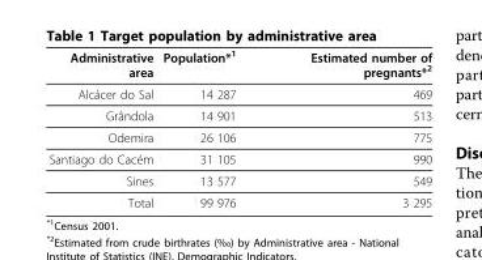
<table><thead><tr><td>Administrative area</td><td>Population*<sup>1</sup></td><td>Estimated number of pregnants*<sup>2</sup></td></tr></thead><tbody><tr><td>Alcácer do Sal</td><td>14 287</td><td>469</td></tr><tr><td>Grândola</td><td>14 901</td><td>513</td></tr><tr><td>Odemira</td><td>26 106</td><td>775</td></tr><tr><td>Santiago do Cacém</td><td>31 105</td><td>990</td></tr><tr><td>Sines</td><td>13 577</td><td>549</td></tr><tr><td>Total</td><td>99 976</td><td>3 295</td></tr></tbody></table>